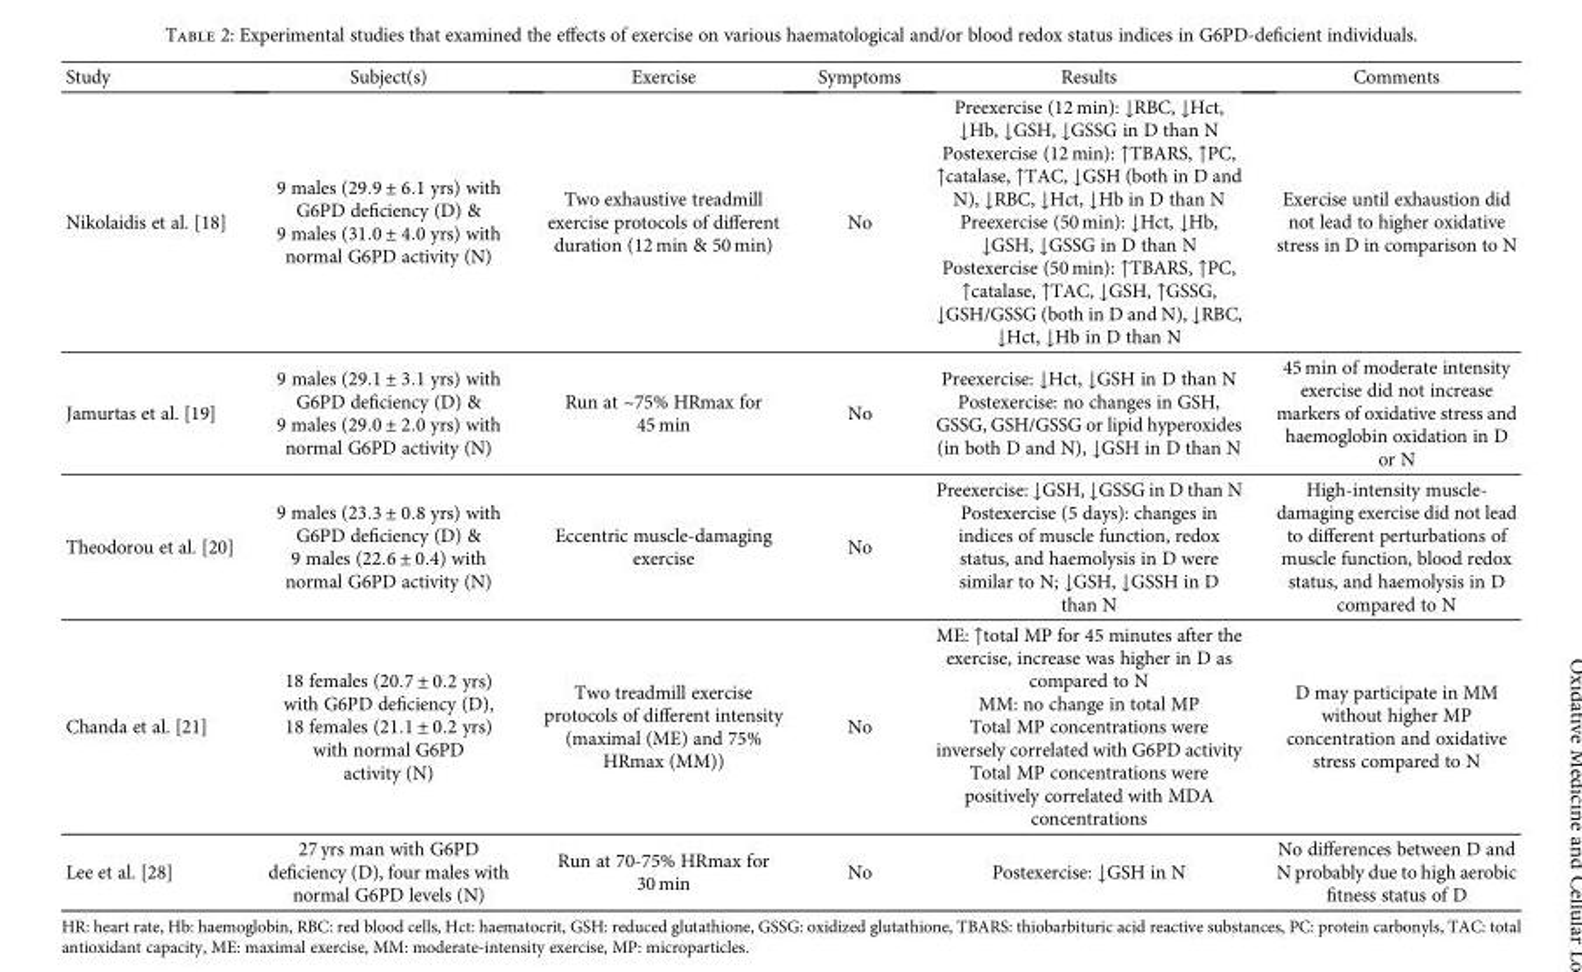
<table><thead><tr><td>Study</td><td>Subject(s)</td><td>Exercise</td><td>Symptoms</td><td>Results</td><td>Comments</td></tr></thead><tbody><tr><td>Nikolaidis et al. [18]</td><td>9 males (29 9 ± 6 1 yrs) with G6PD deficiency (D) &amp; 9 males (31 0 ± 4 0 yrs) with normal G6PD activity (N)</td><td>Two exhaustive treadmill exercise protocols of different duration (12 min &amp; 50 min)</td><td>No</td><td>Preexercise (12 min): ↓RBC, ↓Hct, ↓Hb, ↓GSH, ↓GSSG in D than N Postexercise (12 min): ↑TBARS, ↑PC, ↑catalase, ↑TAC, ↓GSH (both in D and N), ↓RBC, ↓Hct, ↓Hb in D than N Preexercise (50 min): ↓Hct, ↓Hb, ↓GSH, ↓GSSG in D than N Postexercise (50 min): ↑TBARS, ↑PC, ↑catalase, ↑TAC, ↓GSH, ↑GSSG, ↓GSH/GSSG (both in D and N), ↓RBC, ↓Hct, ↓Hb in D than N</td><td>Exercise until exhaustion did not lead to higher oxidative stress in D in comparison to N</td></tr><tr><td>Jamurtas et al. [19]</td><td>9 males (29 1 ± 3 1 yrs) with G6PD deficiency (D) &amp; 9 males (29 0 ± 2 0 yrs) with normal G6PD activity (N)</td><td>Run at ~75% HRmax for 45 min</td><td>No</td><td>Preexercise: ↓Hct, ↓GSH in D than N Postexercise: no changes in GSH, GSSG, GSH/GSSG or lipid hyperoxides (in both D and N), ↓GSH in D than N</td><td>45 min of moderate intensity exercise did not increase markers of oxidative stress and haemoglobin oxidation in D or N</td></tr><tr><td>Theodorou et al. [20]</td><td>9 males (23 3 ± 0 8 yrs) with G6PD deficiency (D) &amp; 9 males (22 6 ± 0 4) with normal G6PD activity (N)</td><td>Eccentric muscle-damaging exercise</td><td>No</td><td>Preexercise: ↓GSH, ↓GSSG in D than N Postexercise (5 days): changes in indices of muscle function, redox status, and haemolysis in D were similar to N; ↓GSH, ↓GSSH in D than N</td><td>High-intensity muscle- damaging exercise did not lead to different perturbations of muscle function, blood redox status, and haemolysis in D compared to N</td></tr><tr><td>Chanda et al. [21]</td><td>18 females (20 7 ± 0 2 yrs) with G6PD deficiency (D), 18 females (21 1 ± 0 2 yrs) with normal G6PD activity (N)</td><td>Two treadmill exercise protocols of different intensity (maximal (ME) and 75% HRmax (MM))</td><td>No</td><td>ME: ↑total MP for 45 minutes after the exercise, increase was higher in D as compared to N MM: no change in total MP Total MP concentrations were inversely correlated with G6PD activity Total MP concentrations were positively correlated with MDA concentrations</td><td>D may participate in MM without higher MP concentration and oxidative stress compared to N</td></tr><tr><td>Lee et al. [28]</td><td>27 yrs man with G6PD deficiency (D), four males with normal G6PD levels (N)</td><td>Run at 70-75% HRmax for 30 min</td><td>No</td><td>Postexercise: ↓GSH in N</td><td>No differences between D and N probably due to high aerobic fitness status of D</td></tr></tbody></table>